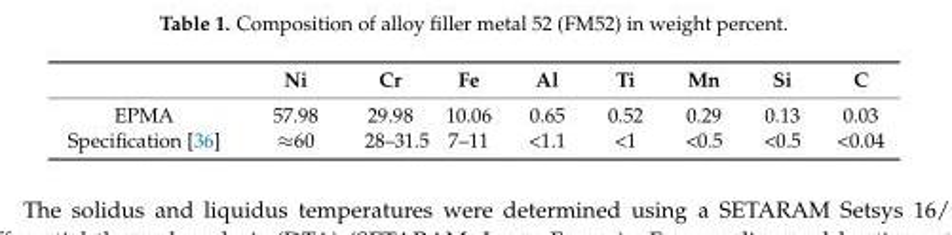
<table><thead><tr><td></td><td>Ni</td><td>Cr</td><td>Fe</td><td>Al</td><td>Ti</td><td>Mn</td><td>Si</td><td>C</td></tr></thead><tbody><tr><td>EPMA</td><td>57.98</td><td>29.98</td><td>10.06</td><td>0.65</td><td>0.52</td><td>0.29</td><td>0.13</td><td>0.03</td></tr><tr><td>Specification [36]</td><td>≈60</td><td>28–31.5</td><td>7–11</td><td>&lt;1.1</td><td>&lt;1</td><td>&lt;0.5</td><td>&lt;0.5</td><td>&lt;0.04</td></tr></tbody></table>